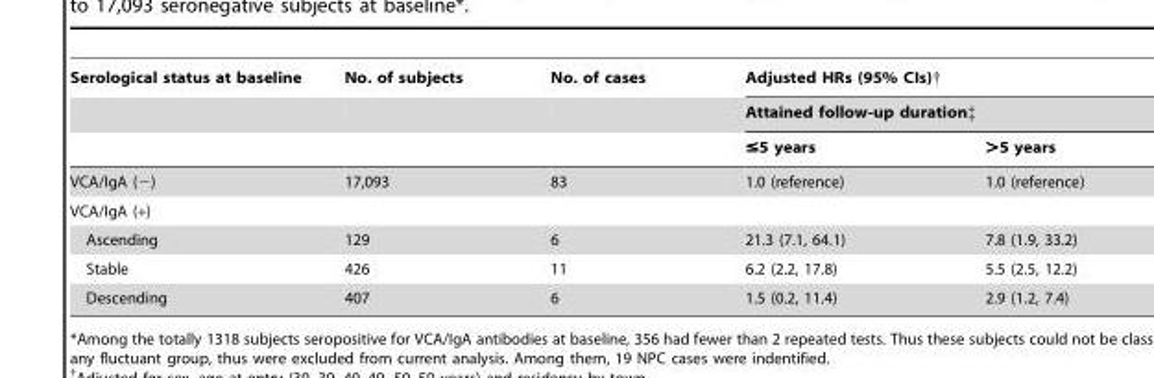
<table><thead><tr><td rowspan="3">Serological status at baseline</td><td rowspan="3">No. of subjects</td><td rowspan="3">No. of cases</td><td rowspan="2" colspan="2">Adjusted HRs (95% CIs)† Attained follow-up duration‡</td></tr><tr></tr><tr><td>≤5 years</td><td>&gt;5 years</td></tr></thead><tbody><tr><td>VCA/IgA (−)</td><td>17,093</td><td>83</td><td>1.0 (reference)</td><td>1.0 (reference)</td></tr><tr><td colspan="5">VCA/IgA (+)</td></tr><tr><td>Ascending</td><td>129</td><td>6</td><td>21.3 (7.1, 64.1)</td><td>7.8 (1.9, 33.2)</td></tr><tr><td>Stable</td><td>426</td><td>11</td><td>6.2 (2.2, 17.8)</td><td>5.5 (2.5, 12.2)</td></tr><tr><td>Descending</td><td>407</td><td>6</td><td>1.5 (0.2, 11.4)</td><td>2.9 (1.2, 7.4)</td></tr></tbody></table>